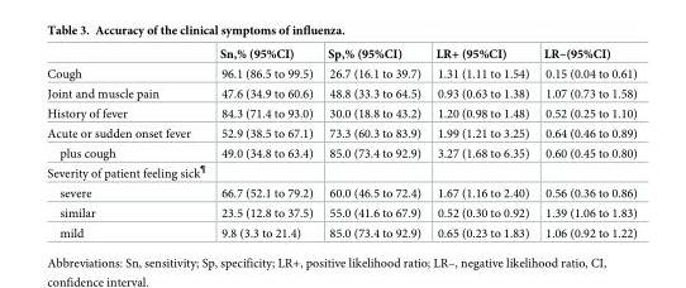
<table><thead><tr><td></td><td>Sn,% (95%CI)</td><td>Sp,% (95%CI)</td><td>LR+ (95%CI)</td><td>LR–(95%CI)</td></tr></thead><tbody><tr><td>Cough</td><td>96.1 (86.5 to 99.5)</td><td>26.7 (16.1 to 39.7)</td><td>1.31 (1.11 to 1.54)</td><td>0.15 (0.04 to 0.61)</td></tr><tr><td>Joint and muscle pain</td><td>47.6 (34.9 to 60.6)</td><td>48.8 (33.3 to 64.5)</td><td>0.93 (0.63 to 1.38)</td><td>1.07 (0.73 to 1.58)</td></tr><tr><td>History of fever</td><td>84.3 (71.4 to 93.0)</td><td>30.0 (18.8 to 43.2)</td><td>1.20 (0.98 to 1.48)</td><td>0.52 (0.25 to 1.10)</td></tr><tr><td>Acute or sudden onset fever</td><td>52.9 (38.5 to 67.1)</td><td>73.3 (60.3 to 83.9)</td><td>1.99 (1.21 to 3.25)</td><td>0.64 (0.46 to 0.89)</td></tr><tr><td>plus cough</td><td>49.0 (34.8 to 63.4)</td><td>85.0 (73.4 to 92.9)</td><td>3.27 (1.68 to 6.35)</td><td>0.60 (0.45 to 0.80)</td></tr><tr><td colspan="5">Severity of patient feeling sick<sup>¶</sup></td></tr><tr><td>severe</td><td>66.7 (52.1 to 79.2)</td><td>60.0 (46.5 to 72.4)</td><td>1.67 (1.16 to 2.40)</td><td>0.56 (0.36 to 0.86)</td></tr><tr><td>similar</td><td>23.5 (12.8 to 37.5)</td><td>55.0 (41.6 to 67.9)</td><td>0.52 (0.30 to 0.92)</td><td>1.39 (1.06 to 1.83)</td></tr><tr><td>mild</td><td>9.8 (3.3 to 21.4)</td><td>85.0 (73.4 to 92.9)</td><td>0.65 (0.23 to 1.83)</td><td>1.06 (0.92 to 1.22)</td></tr></tbody></table>